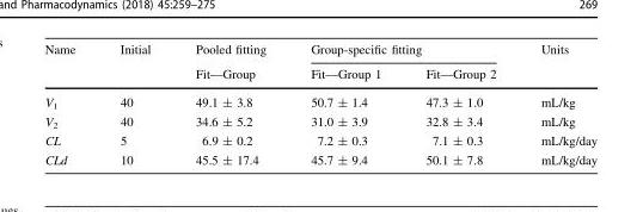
<table><thead><tr><td rowspan="2">Name</td><td rowspan="2">Initial</td><td rowspan="2">Pooled fitting Fit—Group</td><td colspan="2">Group-specific fitting</td><td rowspan="2">Units</td></tr><tr><td>Fit—Group 1</td><td>Fit—Group 2</td></tr></thead><tbody><tr><td>V<sub>1</sub></td><td>40</td><td>49.1 ± 3.8</td><td>50.7 ± 1.4</td><td>47.3 ± 1.0</td><td>mL/kg</td></tr><tr><td>V<sub>2</sub></td><td>40</td><td>34.6 ± 5.2</td><td>31.0 ± 3.9</td><td>32.8 ± 3.4</td><td>mL/kg</td></tr><tr><td>CL</td><td>5</td><td>6.9 ± 0.2</td><td>7.2 ± 0.3</td><td>7.1 ± 0.3</td><td>mL/kg/day</td></tr><tr><td>CLd</td><td>10</td><td>45.5 ± 17.4</td><td>45.7 ± 9.4</td><td>50.1 ± 7.8</td><td>mL/kg/day</td></tr></tbody></table>